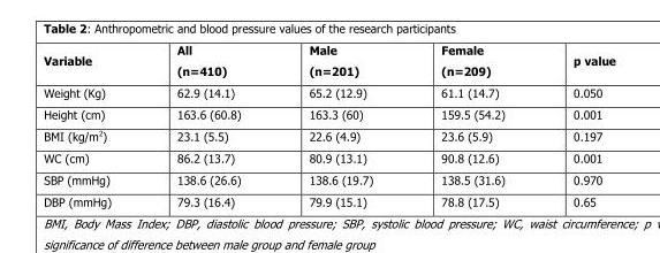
<table><thead><tr><td>Variable</td><td>All (n=410)</td><td>Male (n=201)</td><td>Female (n=209)</td><td>p value</td></tr></thead><tbody><tr><td>Weight (Kg)</td><td>62.9 (14.1)</td><td>65.2 (12.9)</td><td>61.1 (14.7)</td><td>0.050</td></tr><tr><td>Height (cm)</td><td>163.6 (60.8)</td><td>163.3 (60)</td><td>159.5 (54.2)</td><td>0.001</td></tr><tr><td>BMI (kg/m<sup>2</sup>)</td><td>23.1 (5.5)</td><td>22.6 (4.9)</td><td>23.6 (5.9)</td><td>0.197</td></tr><tr><td>WC (cm)</td><td>86.2 (13.7)</td><td>80.9 (13.1)</td><td>90.8 (12.6)</td><td>0.001</td></tr><tr><td>SBP (mmHg)</td><td>138.6 (26.6)</td><td>138.6 (19.7)</td><td>138.5 (31.6)</td><td>0.970</td></tr><tr><td>DBP (mmHg)</td><td>79.3 (16.4)</td><td>79.9 (15.1)</td><td>78.8 (17.5)</td><td>0.65</td></tr></tbody></table>